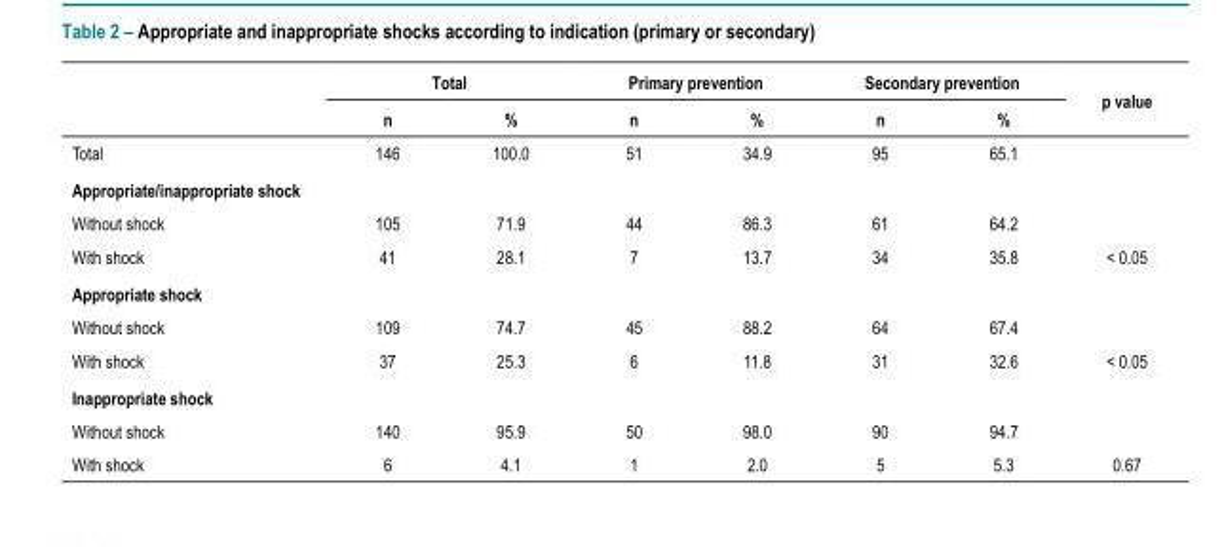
<table><thead><tr><td rowspan="2"></td><td colspan="2">Total</td><td colspan="2">Primary prevention</td><td colspan="2">Secondary prevention</td><td rowspan="2">p value</td></tr><tr><td>n</td><td>%</td><td>n</td><td>%</td><td>n</td><td>%</td></tr></thead><tbody><tr><td>Total</td><td>146</td><td>100.0</td><td>51</td><td>34.9</td><td>95</td><td>65.1</td><td></td></tr><tr><td colspan="8">Appropriate/inappropriate shock</td></tr><tr><td>Without shock</td><td>105</td><td>71.9</td><td>44</td><td>86.3</td><td>61</td><td>64.2</td><td></td></tr><tr><td>With shock</td><td>41</td><td>28.1</td><td>7</td><td>13.7</td><td>34</td><td>35.8</td><td>&lt; 0.05</td></tr><tr><td colspan="8">Appropriate shock</td></tr><tr><td>Without shock</td><td>109</td><td>74.7</td><td>45</td><td>88.2</td><td>64</td><td>67.4</td><td></td></tr><tr><td>With shock</td><td>37</td><td>25.3</td><td>6</td><td>11.8</td><td>31</td><td>32.6</td><td>&lt; 0.05</td></tr><tr><td colspan="8">Inappropriate shock</td></tr><tr><td>Without shock</td><td>140</td><td>95.9</td><td>50</td><td>98.0</td><td>90</td><td>94.7</td><td></td></tr><tr><td>With shock</td><td>6</td><td>4.1</td><td>1</td><td>2.0</td><td>5</td><td>5.3</td><td>0.67</td></tr></tbody></table>